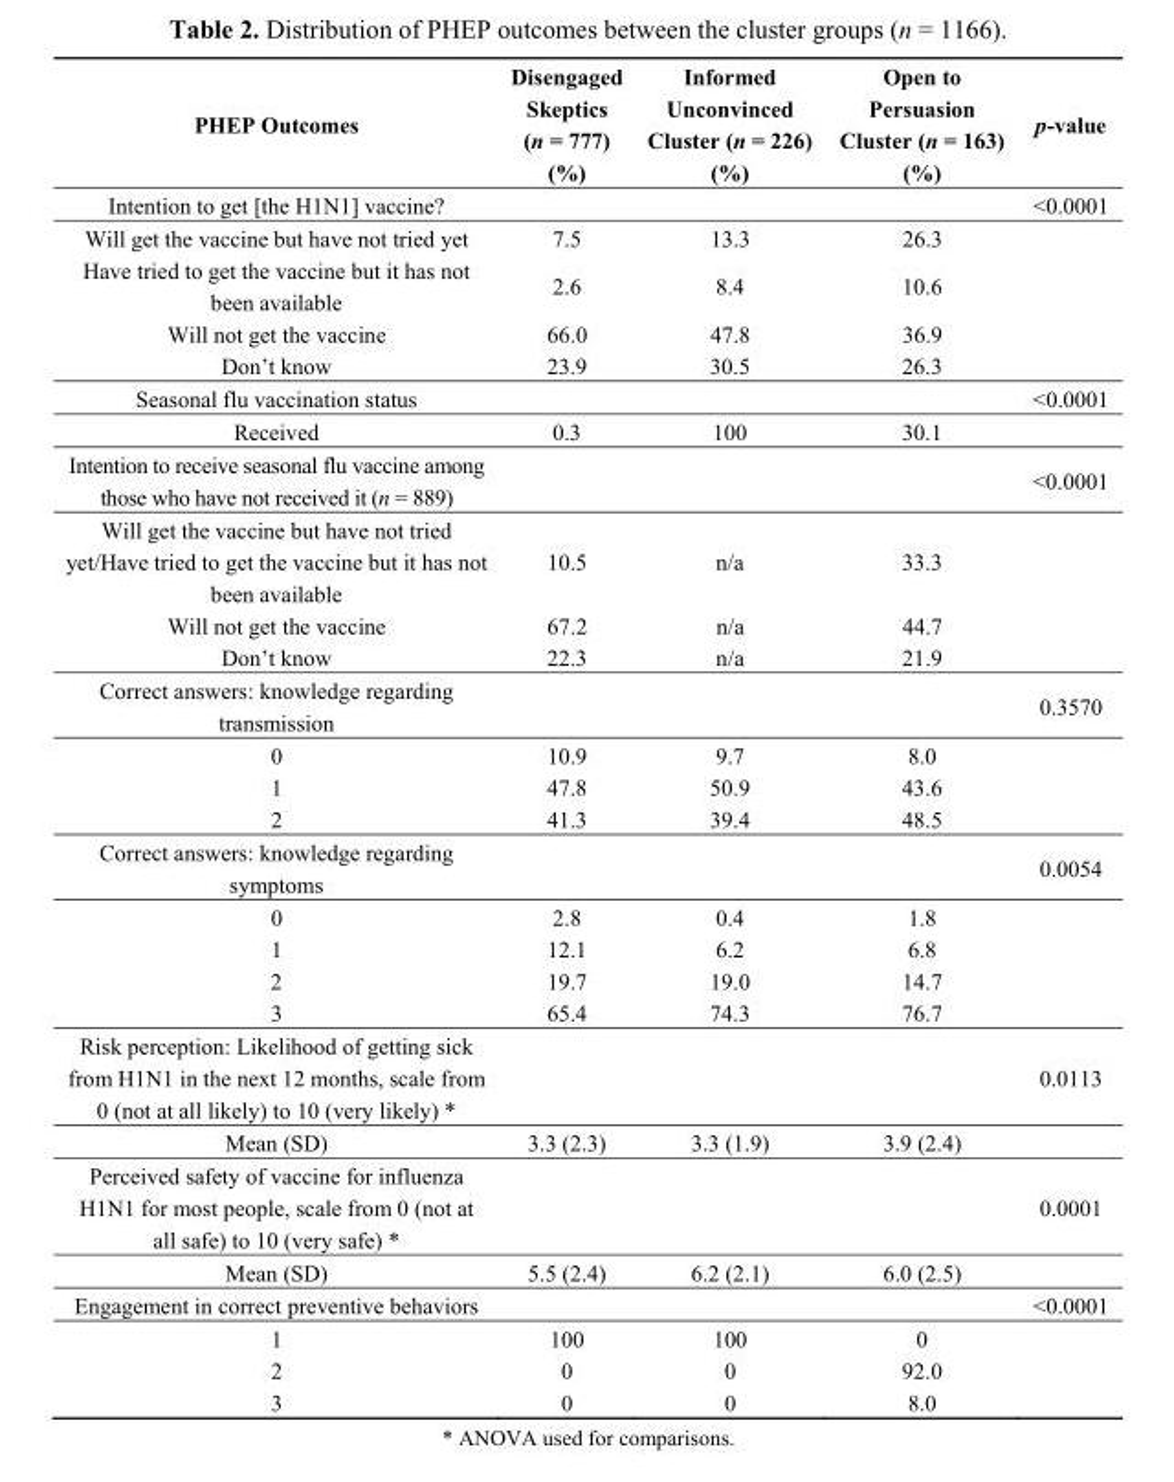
<table><thead><tr><td>PHEP Outcomes</td><td>Disengaged Skeptics (n = 777) (%)</td><td>Informed Unconvinced Cluster (n = 226) (%)</td><td>Open to Persuasion Cluster (n = 163) (%)</td><td>p-value</td></tr></thead><tbody><tr><td>Intention to get [the H1N1] vaccine?</td><td></td><td></td><td></td><td>&lt;0.0001</td></tr><tr><td>Will get the vaccine but have not tried yet</td><td>7.5</td><td>13.3</td><td>26.3</td><td></td></tr><tr><td>Have tried to get the vaccine but it has not been available</td><td>2.6</td><td>8.4</td><td>10.6</td><td></td></tr><tr><td>Will not get the vaccine</td><td>66.0</td><td>47.8</td><td>36.9</td><td></td></tr><tr><td>Don’t know</td><td>23.9</td><td>30.5</td><td>26.3</td><td></td></tr><tr><td>Seasonal flu vaccination status</td><td></td><td></td><td></td><td>&lt;0.0001</td></tr><tr><td>Received</td><td>0.3</td><td>100</td><td>30.1</td><td></td></tr><tr><td>Intention to receive seasonal flu vaccine among those who have not received it (n = 889)</td><td></td><td></td><td></td><td>&lt;0.0001</td></tr><tr><td>Will get the vaccine but have not tried yet/Have tried to get the vaccine but it has not been available</td><td>10.5</td><td>n/a</td><td>33.3</td><td></td></tr><tr><td>Will not get the vaccine</td><td>67.2</td><td>n/a</td><td>44.7</td><td></td></tr><tr><td>Don’t know</td><td>22.3</td><td>n/a</td><td>21.9</td><td></td></tr><tr><td>Correct answers: knowledge regarding transmission</td><td></td><td></td><td></td><td>0.3570</td></tr><tr><td>0</td><td>10.9</td><td>9.7</td><td>8.0</td><td></td></tr><tr><td>1</td><td>47.8</td><td>50.9</td><td>43.6</td><td></td></tr><tr><td>2</td><td>41.3</td><td>39.4</td><td>48.5</td><td></td></tr><tr><td>Correct answers: knowledge regarding symptoms</td><td></td><td></td><td></td><td>0.0054</td></tr><tr><td>0</td><td>2.8</td><td>0.4</td><td>1.8</td><td></td></tr><tr><td>1</td><td>12.1</td><td>6.2</td><td>6.8</td><td></td></tr><tr><td>2</td><td>19.7</td><td>19.0</td><td>14.7</td><td></td></tr><tr><td>3</td><td>65.4</td><td>74.3</td><td>76.7</td><td></td></tr><tr><td>Risk perception: Likelihood of getting sick from H1N1 in the next 12 months, scale from 0 (not at all likely) to 10 (very likely) *</td><td></td><td></td><td></td><td>0.0113</td></tr><tr><td>Mean (SD)</td><td>3.3 (2.3)</td><td>3.3 (1.9)</td><td>3.9 (2.4)</td><td></td></tr><tr><td>Perceived safety of vaccine for influenza H1N1 for most people, scale from 0 (not at all safe) to 10 (very safe) *</td><td></td><td></td><td></td><td>0.0001</td></tr><tr><td>Mean (SD)</td><td>5.5 (2.4)</td><td>6.2 (2.1)</td><td>6.0 (2.5)</td><td></td></tr><tr><td>Engagement in correct preventive behaviors</td><td></td><td></td><td></td><td>&lt;0.0001</td></tr><tr><td>1</td><td>100</td><td>100</td><td>0</td><td></td></tr><tr><td>2</td><td>0</td><td>0</td><td>92.0</td><td></td></tr><tr><td>3</td><td>0</td><td>0</td><td>8.0</td><td></td></tr></tbody></table>